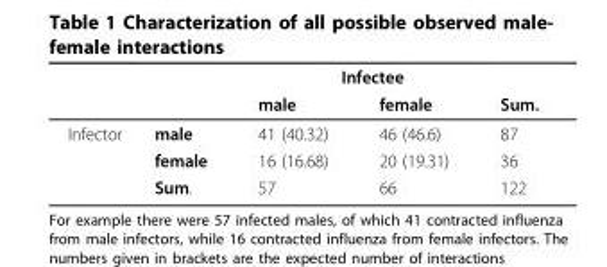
<table><thead><tr><td rowspan="2"></td><td rowspan="2"></td><td colspan="2">Infectee</td><td rowspan="2">Sum.</td></tr><tr><td>male</td><td>female</td></tr></thead><tbody><tr><td rowspan="3">Infector</td><td>male</td><td>41 (40.32)</td><td>46 (46.6)</td><td>87</td></tr><tr><td>female</td><td>16 (16.68)</td><td>20 (19.31)</td><td>36</td></tr><tr><td>Sum.</td><td>57</td><td>66</td><td>122</td></tr></tbody></table>